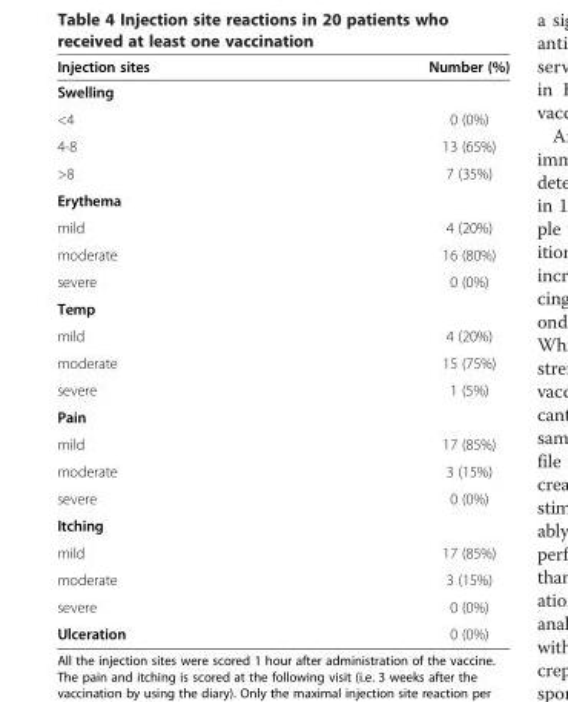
<table><thead><tr><td>Injection sites</td><td>Number (%)</td></tr></thead><tbody><tr><td colspan="2">Swelling</td></tr><tr><td>&lt;4</td><td>0 (0%)</td></tr><tr><td>4-8</td><td>13 (65%)</td></tr><tr><td>&gt;8</td><td>7 (35%)</td></tr><tr><td colspan="2">Erythema</td></tr><tr><td>mild</td><td>4 (20%)</td></tr><tr><td>moderate</td><td>16 (80%)</td></tr><tr><td>severe</td><td>0 (0%)</td></tr><tr><td colspan="2">Temp</td></tr><tr><td>mild</td><td>4 (20%)</td></tr><tr><td>moderate</td><td>15 (75%)</td></tr><tr><td>severe</td><td>1 (5%)</td></tr><tr><td colspan="2">Pain</td></tr><tr><td>mild</td><td>17 (85%)</td></tr><tr><td>moderate</td><td>3 (15%)</td></tr><tr><td>severe</td><td>0 (0%)</td></tr><tr><td colspan="2">Itching</td></tr><tr><td>mild</td><td>17 (85%)</td></tr><tr><td>moderate</td><td>3 (15%)</td></tr><tr><td>severe</td><td>0 (0%)</td></tr><tr><td>Ulceration</td><td>0 (0%)</td></tr></tbody></table>